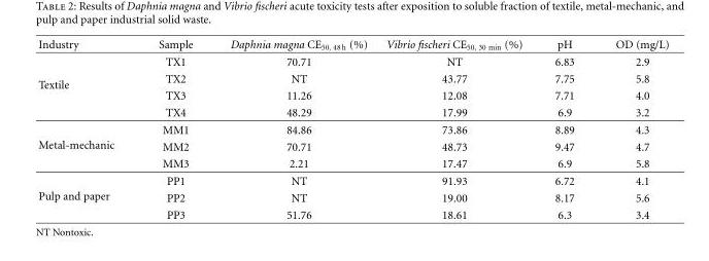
<table><thead><tr><td>Industry</td><td>Sample</td><td>Daphnia magna CE<sub>50, 48h</sub> (%)</td><td>Vibrio fischeri CE<sub>50, 30 min</sub> (%)</td><td>pH</td><td>OD (mg/L)</td></tr></thead><tbody><tr><td rowspan="4">Textile</td><td>TX1</td><td>70.71</td><td>NT</td><td>6.83</td><td>2.9</td></tr><tr><td>TX2</td><td>NT</td><td>43.77</td><td>7.75</td><td>5.8</td></tr><tr><td>TX3</td><td>11.26</td><td>12.08</td><td>7.71</td><td>4.0</td></tr><tr><td>TX4</td><td>48.29</td><td>17.99</td><td>6.9</td><td>3.2</td></tr><tr><td rowspan="3">Metal-mechanic</td><td>MM1</td><td>84.86</td><td>73.86</td><td>8.89</td><td>4.3</td></tr><tr><td>MM2</td><td>70.71</td><td>48.73</td><td>9.47</td><td>4.7</td></tr><tr><td>MM3</td><td>2.21</td><td>17.47</td><td>6.9</td><td>5.8</td></tr><tr><td rowspan="3">Pulp and paper</td><td>PP1</td><td>NT</td><td>91.93</td><td>6.72</td><td>4.1</td></tr><tr><td>PP2</td><td>NT</td><td>19.00</td><td>8.17</td><td>5.6</td></tr><tr><td>PP3</td><td>51.76</td><td>18.61</td><td>6.3</td><td>3.4</td></tr></tbody></table>